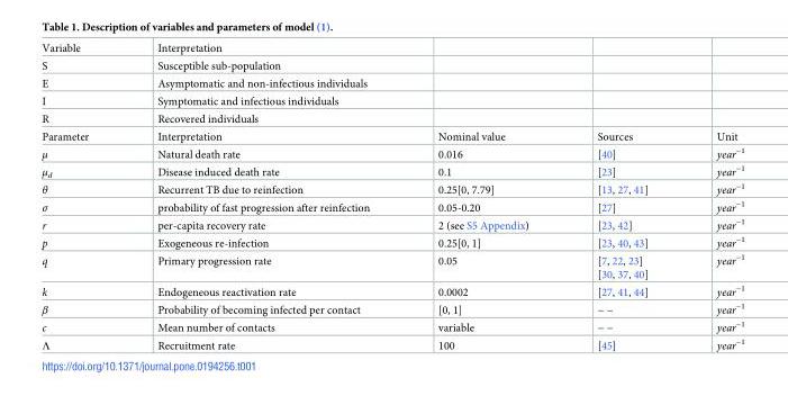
<table><tbody><tr><td>Variable</td><td>Interpretation</td><td></td><td></td><td></td></tr><tr><td>S</td><td>Susceptible sub-population</td><td></td><td></td><td></td></tr><tr><td>E</td><td>Asymptomatic and non-infectious individuals</td><td></td><td></td><td></td></tr><tr><td>I</td><td>Symptomatic and infectious individuals</td><td></td><td></td><td></td></tr><tr><td>R</td><td>Recovered individuals</td><td></td><td></td><td></td></tr><tr><td>Parameter</td><td>Interpretation</td><td>Nominal value</td><td>Sources</td><td>Unit</td></tr><tr><td>μ</td><td>Natural death rate</td><td>0.016</td><td>[40]</td><td>year<sup>−1</sup></td></tr><tr><td>μ<sub>d</sub></td><td>Disease induced death rate</td><td>0.1</td><td>[23]</td><td>year<sup>−1</sup></td></tr><tr><td>θ</td><td>Recurrent TB due to reinfection</td><td>0.25[0, 7.79]</td><td>[13, 27, 41]</td><td>year<sup>−1</sup></td></tr><tr><td>σ</td><td>probability of fast progression after reinfection</td><td>0.05-0.20</td><td>[27]</td><td>year<sup>−1</sup></td></tr><tr><td>r</td><td>per-capita recovery rate</td><td>2 (see S5 Appendix)</td><td>[23, 42]</td><td>year<sup>−1</sup></td></tr><tr><td>p</td><td>Exogeneous re-infection</td><td>0.25[0, 1]</td><td>[23, 40, 43]</td><td>year<sup>−1</sup></td></tr><tr><td>q</td><td>Primary progression rate</td><td>0.05</td><td>[7, 22, 23] [30, 37, 40]</td><td>year<sup>−1</sup></td></tr><tr><td>k</td><td>Endogeneous reactivation rate</td><td>0.0002</td><td>[27, 41, 44]</td><td>year<sup>−1</sup></td></tr><tr><td>β</td><td>Probability of becoming infected per contact</td><td>[0, 1]</td><td>− −</td><td>year<sup>−1</sup></td></tr><tr><td>c</td><td>Mean number of contacts</td><td>variable</td><td>− −</td><td>year<sup>−1</sup></td></tr><tr><td>Λ</td><td>Recruitment rate</td><td>100</td><td>[45]</td><td>year<sup>−1</sup></td></tr></tbody></table>